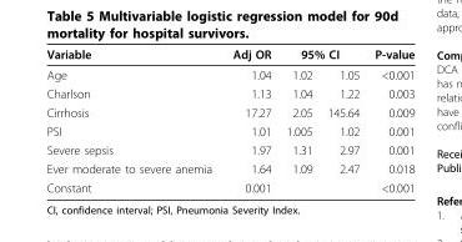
<table><thead><tr><td rowspan="2">Variable Age</td><td rowspan="2">Adj OR 1.04</td><td colspan="2">95% CI</td><td rowspan="2">P-value &lt;0.001</td></tr><tr><td>1.02</td><td>1.05</td></tr></thead><tbody><tr><td>Charlson</td><td>1.13</td><td>1.04</td><td>1.22</td><td>0.003</td></tr><tr><td>Cirrhosis</td><td>17.27</td><td>2.05</td><td>145.64</td><td>0.009</td></tr><tr><td>PSI</td><td>1.01</td><td>1.005</td><td>1.02</td><td>0.001</td></tr><tr><td>Severe sepsis</td><td>1.97</td><td>1.31</td><td>2.97</td><td>0.001</td></tr><tr><td>Ever moderate to severe anemia</td><td>1.64</td><td>1.09</td><td>2.47</td><td>0.018</td></tr><tr><td>Constant</td><td>0.001</td><td></td><td></td><td>&lt;0.001</td></tr></tbody></table>